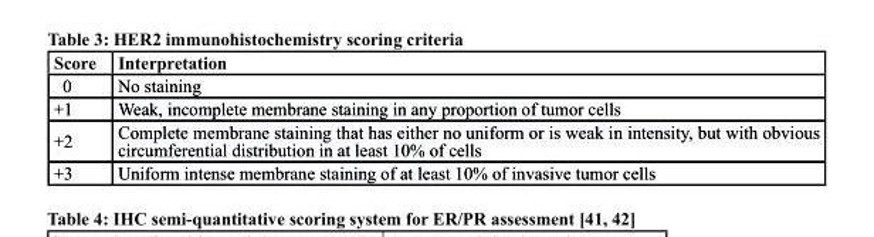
<table><thead><tr><td>score</td><td>Interpretation</td></tr></thead><tbody><tr><td>0</td><td>No staining</td></tr><tr><td>+1</td><td>Weak, incomplete membrane staining in any proportion of tumor cells</td></tr><tr><td>+2</td><td>Complete membrane staining that has either no uniform or is weak in intensity, but with obvious circumferential distribution in at least 10% of cells</td></tr><tr><td>+3</td><td>Uniform intense membrane staining of at least 10% of invasive tumor cells</td></tr></tbody></table>